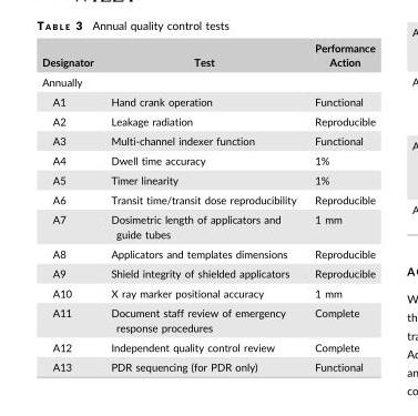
<table><thead><tr><td rowspan="2">Designator</td><td rowspan="2">Test</td><td rowspan="2">Performance Action</td></tr><tr></tr></thead><tbody><tr><td colspan="3">Annually</td></tr><tr><td>A1</td><td>Hand crank operation</td><td>Functional</td></tr><tr><td>A2</td><td>Leakage radiation</td><td>Reproducible</td></tr><tr><td>A3</td><td>Multi-channel indexer function</td><td>Functional</td></tr><tr><td>A4</td><td>Dwell time accuracy</td><td>1%</td></tr><tr><td>A5</td><td>Timer linearity</td><td>1%</td></tr><tr><td>A6</td><td>Transit time/transit dose reproducibility</td><td>Reproducible</td></tr><tr><td>A7</td><td>Dosimetric length of applicators and guide tubes</td><td>1 mm</td></tr><tr><td>A8</td><td>Applicators and templates dimensions</td><td>Reproducible</td></tr><tr><td>A9</td><td>Shield integrity of shielded applicators</td><td>Reproducible</td></tr><tr><td>A10</td><td>X ray marker positional accuracy</td><td>1 mm</td></tr><tr><td>A11</td><td>Document staff review of emergency response procedures</td><td>Complete</td></tr><tr><td>A12</td><td>Independent quality control review</td><td>Complete</td></tr><tr><td>A13</td><td>PDR sequencing (for PDR only)</td><td>Functional</td></tr></tbody></table>